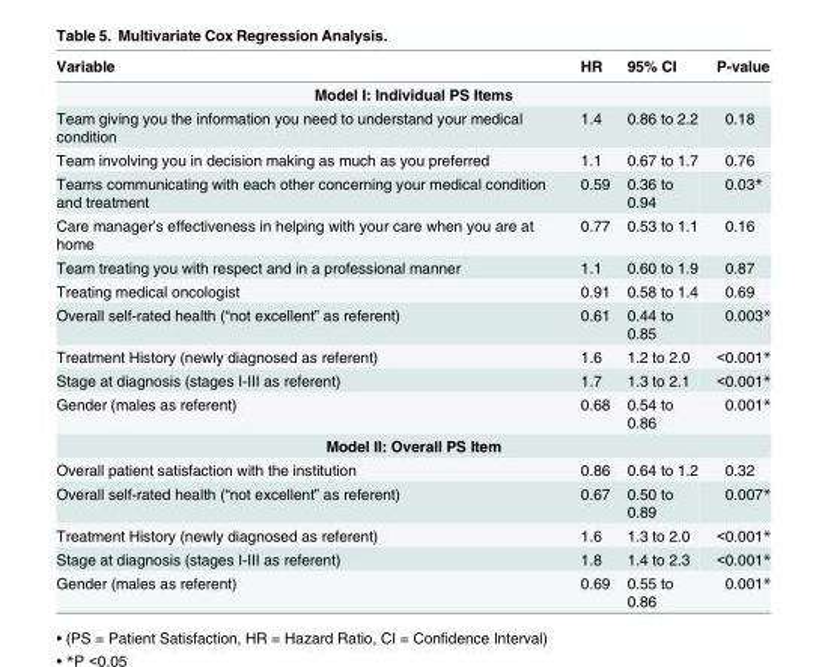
<table><thead><tr><td>Variable</td><td>HR</td><td>95% CI</td><td>P-value</td></tr></thead><tbody><tr><td colspan="4">Model I: Individual PS Items</td></tr><tr><td>Team giving you the information you need to understand your medical condition</td><td>1.4</td><td>0.86 to 2.2</td><td>0.18</td></tr><tr><td>Team involving you in decision making as much as you preferred</td><td>1.1</td><td>0.67 to 1.7</td><td>0.76</td></tr><tr><td>Teams communicating with each other concerning your medical condition and treatment</td><td>0.59</td><td>0.36 to 0.94</td><td>0.03*</td></tr><tr><td>Care manager’s effectiveness in helping with your care when you are at home</td><td>0.77</td><td>0.53 to 1.1</td><td>0.16</td></tr><tr><td>Team treating you with respect and in a professional manner</td><td>1.1</td><td>0.60 to 1.9</td><td>0.87</td></tr><tr><td>Treating medical oncologist</td><td>0.91</td><td>0.58 to 1.4</td><td>0.69</td></tr><tr><td>Overall self-rated health (“not excellent” as referent)</td><td>0.61</td><td>0.44 to 0.85</td><td>0.003*</td></tr><tr><td>Treatment History (newly diagnosed as referent)</td><td>1.6</td><td>1.2 to 2.0</td><td>&lt;0.001*</td></tr><tr><td>Stage at diagnosis (stages I-III as referent)</td><td>1.7</td><td>1.3 to 2.1</td><td>&lt;0.001*</td></tr><tr><td>Gender (males as referent)</td><td>0.68</td><td>0.54 to 0.86</td><td>0.001*</td></tr><tr><td colspan="4">Model II: Overall PS Item</td></tr><tr><td>Overall patient satisfaction with the institution</td><td>0.86</td><td>0.64 to 1.2</td><td>0.32</td></tr><tr><td>Overall self-rated health (“not excellent” as referent)</td><td>0.67</td><td>0.50 to 0.89</td><td>0.007*</td></tr><tr><td>Treatment History (newly diagnosed as referent)</td><td>1.6</td><td>1.3 to 2.0</td><td>&lt;0.001*</td></tr><tr><td>Stage at diagnosis (stages I-III as referent)</td><td>1.8</td><td>1.4 to 2.3</td><td>&lt;0.001*</td></tr><tr><td>Gender (males as referent)</td><td>0.69</td><td>0.55 to 0.86</td><td>0.001*</td></tr></tbody></table>